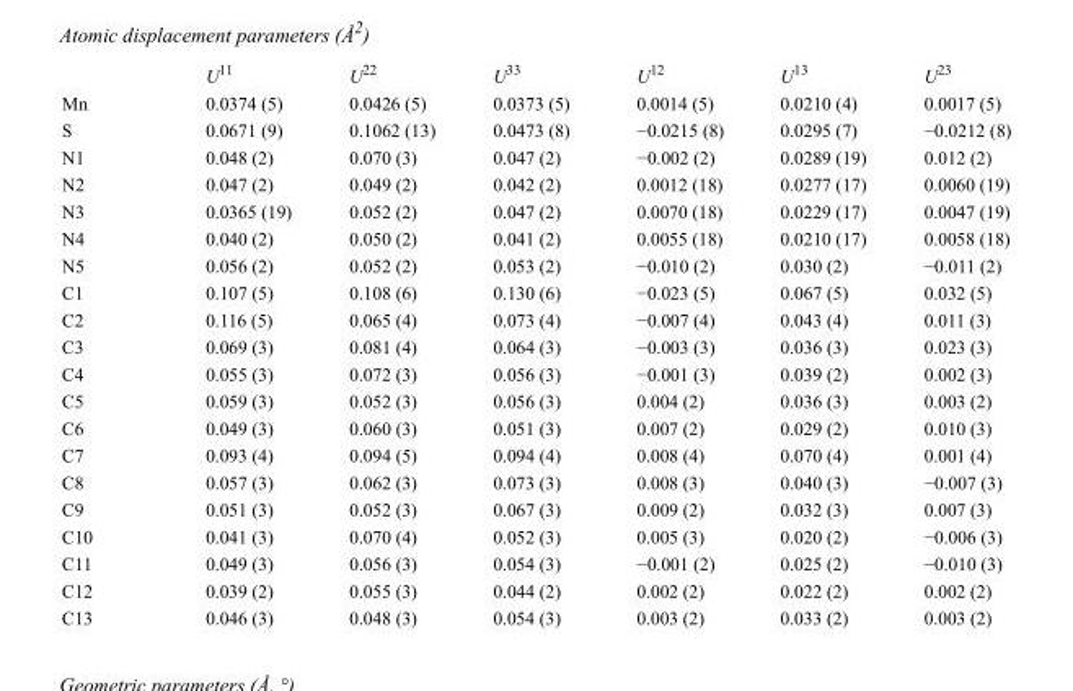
<table><thead><tr><td></td><td>U<sup>11</sup></td><td>U<sup>22</sup></td><td>U<sup>33</sup></td><td>U<sup>12</sup></td><td>U<sup>13</sup></td><td>U<sup>23</sup></td></tr></thead><tbody><tr><td>Mn</td><td>0.0374 (5)</td><td>0.0426 (5)</td><td>0.0373 (5)</td><td>0.0014 (5)</td><td>0.0210 (4)</td><td>0.0017 (5)</td></tr><tr><td>S</td><td>0.0671 (9)</td><td>0.1062 (13)</td><td>0.0473 (8)</td><td>−0.0215 (8)</td><td>0.0295 (7)</td><td>−0.0212 (8)</td></tr><tr><td>N1</td><td>0.048 (2)</td><td>0.070 (3)</td><td>0.047 (2)</td><td>−0.002 (2)</td><td>0.0289 (19)</td><td>0.012 (2)</td></tr><tr><td>N2</td><td>0.047 (2)</td><td>0.049 (2)</td><td>0.042 (2)</td><td>0.0012 (18)</td><td>0.0277 (17)</td><td>0.0060 (19)</td></tr><tr><td>N3</td><td>0.0365 (19)</td><td>0.052 (2)</td><td>0.047 (2)</td><td>0.0070 (18)</td><td>0.0229 (17)</td><td>0.0047 (19)</td></tr><tr><td>N4</td><td>0.040 (2)</td><td>0.050 (2)</td><td>0.041 (2)</td><td>0.0055 (18)</td><td>0.0210 (17)</td><td>0.0058 (18)</td></tr><tr><td>N5</td><td>0.056 (2)</td><td>0.052 (2)</td><td>0.053 (2)</td><td>−0.010 (2)</td><td>0.030 (2)</td><td>−0.011 (2)</td></tr><tr><td>C1</td><td>0.107 (5)</td><td>0.108 (6)</td><td>0.130 (6)</td><td>−0.023 (5)</td><td>0.067 (5)</td><td>0.032 (5)</td></tr><tr><td>C2</td><td>0.116 (5)</td><td>0.065 (4)</td><td>0.073 (4)</td><td>−0.007 (4)</td><td>0.043 (4)</td><td>0.011 (3)</td></tr><tr><td>C3</td><td>0.069 (3)</td><td>0.081 (4)</td><td>0.064 (3)</td><td>−0.003 (3)</td><td>0.036 (3)</td><td>0.023 (3)</td></tr><tr><td>C4</td><td>0.055 (3)</td><td>0.072 (3)</td><td>0.056 (3)</td><td>−0.001 (3)</td><td>0.039 (2)</td><td>0.002 (3)</td></tr><tr><td>C5</td><td>0.059 (3)</td><td>0.052 (3)</td><td>0.056 (3)</td><td>0.004 (2)</td><td>0.036 (3)</td><td>0.003 (2)</td></tr><tr><td>C6</td><td>0.049 (3)</td><td>0.060 (3)</td><td>0.051 (3)</td><td>0.007 (2)</td><td>0.029 (2)</td><td>0.010 (3)</td></tr><tr><td>C7</td><td>0.093 (4)</td><td>0.094 (5)</td><td>0.094 (4)</td><td>0.008 (4)</td><td>0.070 (4)</td><td>0.001 (4)</td></tr><tr><td>C8</td><td>0.057 (3)</td><td>0.062 (3)</td><td>0.073 (3)</td><td>0.008 (3)</td><td>0.040 (3)</td><td>−0.007 (3)</td></tr><tr><td>C9</td><td>0.051 (3)</td><td>0.052 (3)</td><td>0.067 (3)</td><td>0.009 (2)</td><td>0.032 (3)</td><td>0.007 (3)</td></tr><tr><td>C10</td><td>0.041 (3)</td><td>0.070 (4)</td><td>0.052 (3)</td><td>0.005 (3)</td><td>0.020 (2)</td><td>−0.006 (3)</td></tr><tr><td>C11</td><td>0.049 (3)</td><td>0.056 (3)</td><td>0.054 (3)</td><td>−0.001 (2)</td><td>0.025 (2)</td><td>−0.010 (3)</td></tr><tr><td>C12</td><td>0.039 (2)</td><td>0.055 (3)</td><td>0.044 (2)</td><td>0.002 (2)</td><td>0.022 (2)</td><td>0.002 (2)</td></tr><tr><td>C13</td><td>0.046 (3)</td><td>0.048 (3)</td><td>0.054 (3)</td><td>0.003 (2)</td><td>0.033 (2)</td><td>0.003 (2)</td></tr></tbody></table>